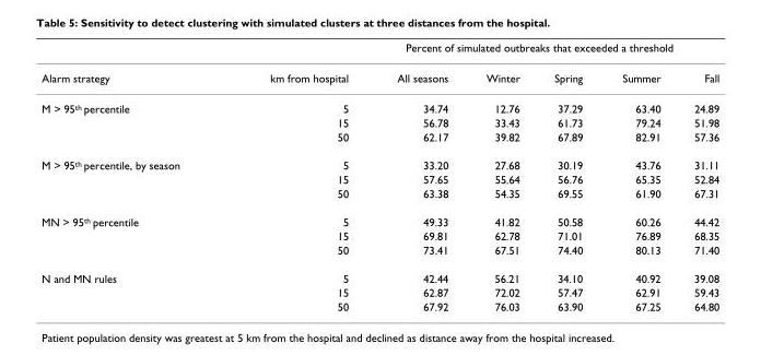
<table><thead><tr><td rowspan="2">Alarm strategy</td><td rowspan="2">km from hospital</td><td colspan="5">Percent of simulated outbreaks that exceeded a threshold</td></tr><tr><td>All seasons</td><td>Winter</td><td>Spring</td><td>Summer</td><td>Fall</td></tr></thead><tbody><tr><td rowspan="3">M &gt; 95<sup>th</sup> percentile</td><td>5</td><td>34.74</td><td>12.76</td><td>37.29</td><td>63.40</td><td>24.89</td></tr><tr><td>15</td><td>56.78</td><td>33.43</td><td>61.73</td><td>79.24</td><td>51.98</td></tr><tr><td>50</td><td>62.17</td><td>39.82</td><td>67.89</td><td>82.91</td><td>57.36</td></tr><tr><td rowspan="3">M &gt; 95<sup>th</sup> percentile, by season</td><td>5</td><td>33.20</td><td>27.68</td><td>30.19</td><td>43.76</td><td>31.11</td></tr><tr><td>15</td><td>57.65</td><td>55.64</td><td>56.76</td><td>65.35</td><td>52.84</td></tr><tr><td>50</td><td>63.38</td><td>54.35</td><td>69.55</td><td>61.90</td><td>67.31</td></tr><tr><td rowspan="3">MN &gt; 95<sup>th</sup> percentile</td><td>5</td><td>49.33</td><td>41.82</td><td>50.58</td><td>60.26</td><td>44.42</td></tr><tr><td>15</td><td>69.81</td><td>62.78</td><td>71.01</td><td>76.89</td><td>68.35</td></tr><tr><td>50</td><td>73.41</td><td>67.51</td><td>74.40</td><td>80.13</td><td>71.40</td></tr><tr><td rowspan="3">N and MN rules</td><td>5</td><td>42.44</td><td>56.21</td><td>34.10</td><td>40.92</td><td>39.08</td></tr><tr><td>15</td><td>62.87</td><td>72.02</td><td>57.47</td><td>62.91</td><td>59.43</td></tr><tr><td>50</td><td>67.92</td><td>76.03</td><td>63.90</td><td>67.25</td><td>64.80</td></tr></tbody></table>